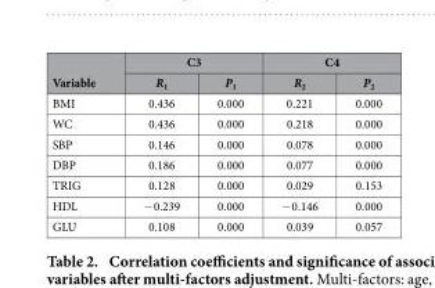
<table><thead><tr><td rowspan="2">Variable</td><td colspan="2">C3</td><td colspan="2">C4</td></tr><tr><td>R<sub>1</sub></td><td>P<sub>1</sub></td><td>R<sub>2</sub></td><td>P<sub>2</sub></td></tr></thead><tbody><tr><td>BMI</td><td>0.436</td><td>0.000</td><td>0.221</td><td>0.000</td></tr><tr><td>WC</td><td>0.436</td><td>0.000</td><td>0.218</td><td>0.000</td></tr><tr><td>SBP</td><td>0.146</td><td>0.000</td><td>0.078</td><td>0.000</td></tr><tr><td>DBP</td><td>0.186</td><td>0.000</td><td>0.077</td><td>0.000</td></tr><tr><td>TRIG</td><td>0.128</td><td>0.000</td><td>0.029</td><td>0.153</td></tr><tr><td>HDL</td><td>− 0.239</td><td>0.000</td><td>− 0.146</td><td>0.000</td></tr><tr><td>GLU</td><td>0.108</td><td>0.000</td><td>0.039</td><td>0.057</td></tr></tbody></table>